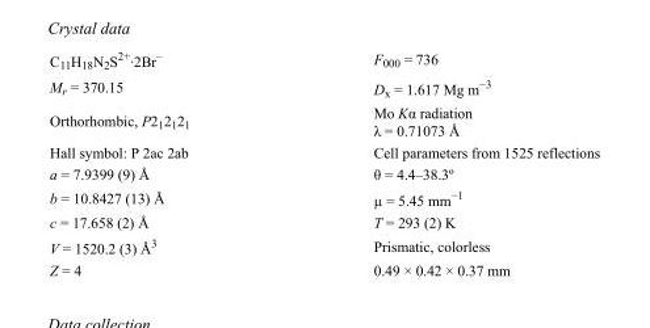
<table><tbody><tr><td>C<sub>11</sub>H<sub>18</sub>N<sub>2</sub>S<sup>2+</sup>·2Br<sup>–</sup></td><td>F<sub>000</sub> = 736</td></tr><tr><td>M<sub>r</sub> = 370.15</td><td>D<sub>x</sub> = 1.617 Mg m<sup>−3</sup></td></tr><tr><td>Orthorhombic, P2<sub>1</sub>2<sub>1</sub>2<sub>1</sub></td><td>Mo Kα radiation λ = 0.71073 Å</td></tr><tr><td>Hall symbol: P 2ac 2ab</td><td>Cell parameters from 1525 reflections</td></tr><tr><td>a = 7.9399 (9) Å</td><td>θ = 4.4–38.3º</td></tr><tr><td>b = 10.8427 (13) Å</td><td>µ = 5.45 mm<sup>−1</sup></td></tr><tr><td>c = 17.658 (2) Å</td><td>T = 293 (2) K</td></tr><tr><td>V = 1520.2 (3) Å<sup>3</sup></td><td>Prismatic, colorless</td></tr><tr><td>Z = 4</td><td>0.49 × 0.42 × 0.37 mm</td></tr></tbody></table>